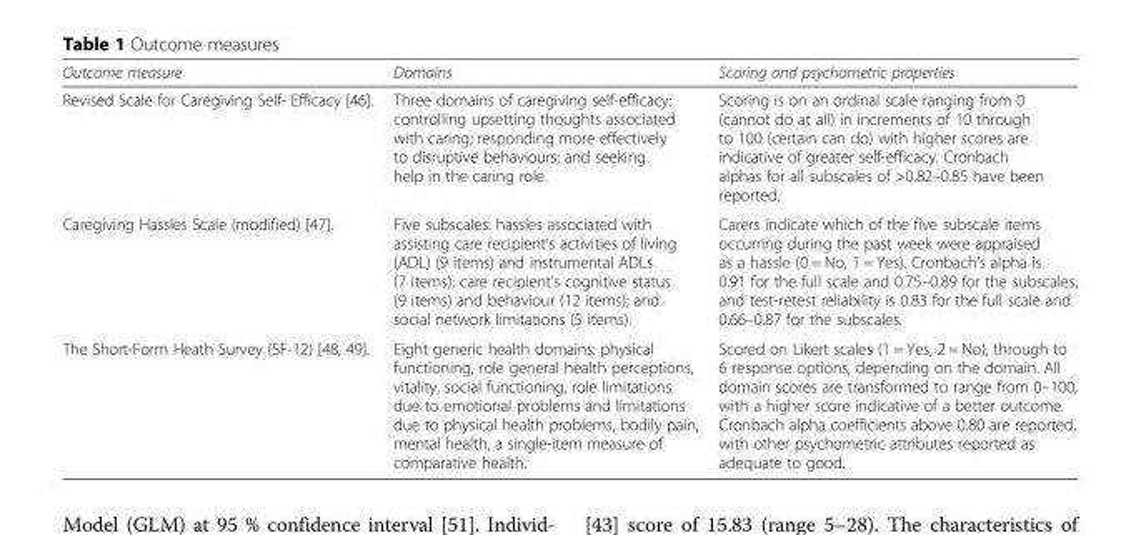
<table><thead><tr><td>Outcome measure</td><td>Domains</td><td>Scoring and psychometric properties</td></tr></thead><tbody><tr><td>Revised Scale for Caregiving Self- Efficacy [46].</td><td>Three domains of caregiving self-efficacy: controlling upsetting thoughts associated with caring; responding more effectively to disruptive behaviours; and seeking help in the caring role.</td><td>Scoring is on an ordinal scale ranging from 0 (cannot do at all) in increments of 10 through to 100 (certain can do) with higher scores are indicative of greater self-efficacy. Cronbach alphas for all subscales of &gt;0.82–0.85 have been reported.</td></tr><tr><td>Caregiving Hassles Scale (modified) [47].</td><td>Five subscales: hassles associated with assisting care recipient’s activities of living (ADL) (9 items) and instrumental ADLs (7 items); care recipient’s cognitive status (9 items) and behaviour (12 items); and social network limitations (5 items).</td><td>Carers indicate which of the five subscale items occurring during the past week were appraised as a hassle (0 = No, 1 = Yes). Cronbach’s alpha is 0.91 for the full scale and 0.75–0.89 for the subscales, and test-retest reliability is 0.83 for the full scale and 0.66–0.87 for the subscales.</td></tr><tr><td>The Short-Form Heath Survey (SF-12) [48, 49].</td><td>Eight generic health domains: physical functioning, role general health perceptions, vitality, social functioning, role limitations due to emotional problems and limitations due to physical health problems, bodily pain, mental health, a single-item measure of comparative health.</td><td>Scored on Likert scales (1 = Yes, 2 = No), through to 6 response options, depending on the domain. All domain scores are transformed to range from 0–100, with a higher score indicative of a better outcome. Cronbach alpha coefficients above 0.80 are reported, with other psychometric attributes reported as adequate to good.</td></tr></tbody></table>